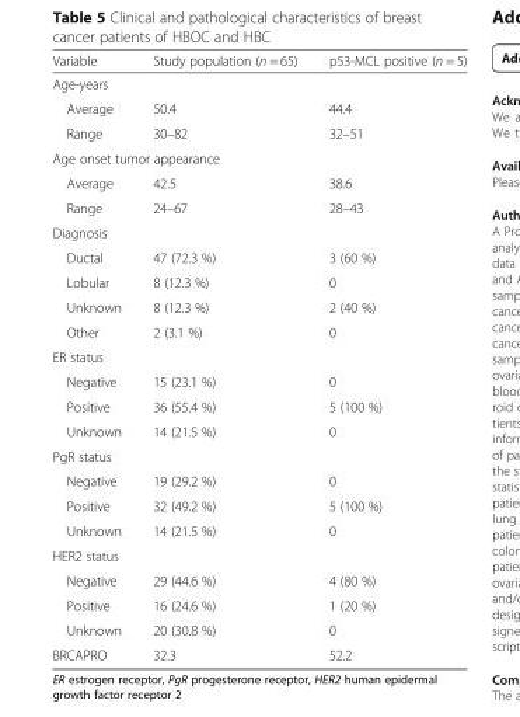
<table><thead><tr><td>Variable</td><td>Study population (n = 65)</td><td>p53-MCL positive (n = 5)</td></tr></thead><tbody><tr><td colspan="3">Age-years</td></tr><tr><td>Average</td><td>50.4</td><td>44.4</td></tr><tr><td>Range</td><td>30–82</td><td>32–51</td></tr><tr><td colspan="3">Age onset tumor appearance</td></tr><tr><td>Average</td><td>42.5</td><td>38.6</td></tr><tr><td>Range</td><td>24–67</td><td>28–43</td></tr><tr><td colspan="3">Diagnosis</td></tr><tr><td>Ductal</td><td>47 (72.3 %)</td><td>3 (60 %)</td></tr><tr><td>Lobular</td><td>8 (12.3 %)</td><td>0</td></tr><tr><td>Unknown</td><td>8 (12.3 %)</td><td>2 (40 %)</td></tr><tr><td>Other</td><td>2 (3.1 %)</td><td>0</td></tr><tr><td colspan="3">ER status</td></tr><tr><td>Negative</td><td>15 (23.1 %)</td><td>0</td></tr><tr><td>Positive</td><td>36 (55.4 %)</td><td>5 (100 %)</td></tr><tr><td>Unknown</td><td>14 (21.5 %)</td><td>0</td></tr><tr><td colspan="3">PgR status</td></tr><tr><td>Negative</td><td>19 (29.2 %)</td><td>0</td></tr><tr><td>Positive</td><td>32 (49.2 %)</td><td>5 (100 %)</td></tr><tr><td>Unknown</td><td>14 (21.5 %)</td><td>0</td></tr><tr><td colspan="3">HER2 status</td></tr><tr><td>Negative</td><td>29 (44.6 %)</td><td>4 (80 %)</td></tr><tr><td>Positive</td><td>16 (24.6 %)</td><td>1 (20 %)</td></tr><tr><td>Unknown</td><td>20 (30.8 %)</td><td>0</td></tr><tr><td>BRCAPRO</td><td>32.3</td><td>52.2</td></tr></tbody></table>